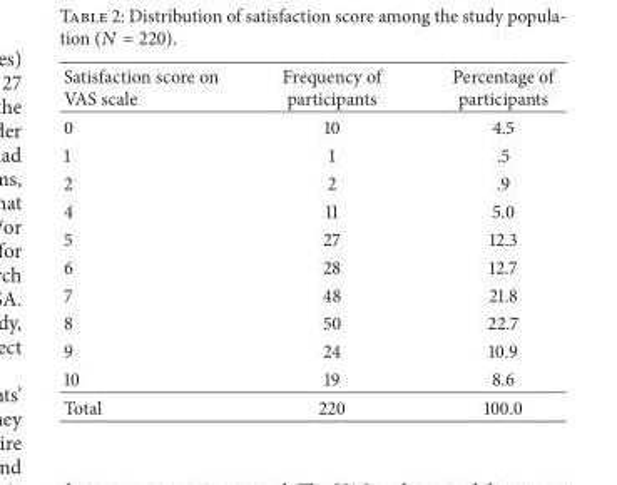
<table><thead><tr><td>Satisfaction score on VAS scale</td><td>Frequency of participants</td><td>Percentage of participants</td></tr></thead><tbody><tr><td>0</td><td>10</td><td>4.5</td></tr><tr><td>1</td><td>1</td><td>.5</td></tr><tr><td>2</td><td>2</td><td>.9</td></tr><tr><td>4</td><td>11</td><td>5.0</td></tr><tr><td>5</td><td>27</td><td>12.3</td></tr><tr><td>6</td><td>28</td><td>12.7</td></tr><tr><td>7</td><td>48</td><td>21.8</td></tr><tr><td>8</td><td>50</td><td>22.7</td></tr><tr><td>9</td><td>24</td><td>10.9</td></tr><tr><td>10</td><td>19</td><td>8.6</td></tr><tr><td>Total</td><td>220</td><td>100.0</td></tr></tbody></table>